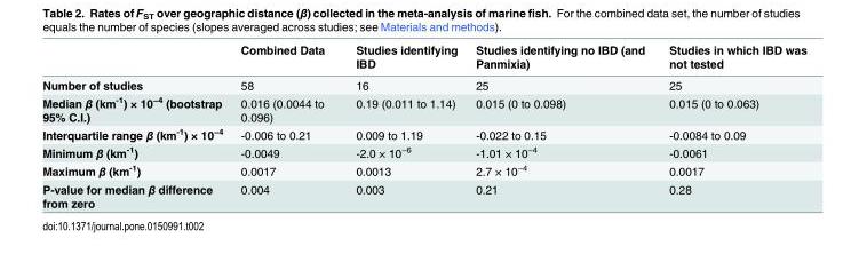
<table><thead><tr><td></td><td>Combined Data</td><td>Studies identifying IBD</td><td>Studies identifying no IBD (and Panmixia)</td><td>Studies in which IBD was not tested</td></tr></thead><tbody><tr><td>Number of studies</td><td>58</td><td>16</td><td>25</td><td>25</td></tr><tr><td>Median β (km<sup>-1</sup>) × 10<sup>−4</sup> (bootstrap 95% C.I.)</td><td>0.016 (0.0044 to 0.096)</td><td>0.19 (0.011 to 1.14)</td><td>0.015 (0 to 0.098)</td><td>0.015 (0 to 0.063)</td></tr><tr><td>Interquartile range β (km<sup>-1</sup>) × 10<sup>−4</sup></td><td>-0.006 to 0.21</td><td>0.009 to 1.19</td><td>-0.022 to 0.15</td><td>-0.0084 to 0.09</td></tr><tr><td>Minimum β (km<sup>-1</sup>)</td><td>-0.0049</td><td>-2.0 × 10<sup>−6</sup></td><td>-1.01 × 10<sup>−4</sup></td><td>-0.0061</td></tr><tr><td>Maximum β (km<sup>-1</sup>)</td><td>0.0017</td><td>0.0013</td><td>2.7 × 10<sup>−4</sup></td><td>0.0017</td></tr><tr><td>P-value for median β difference from zero</td><td>0.004</td><td>0.003</td><td>0.21</td><td>0.28</td></tr></tbody></table>